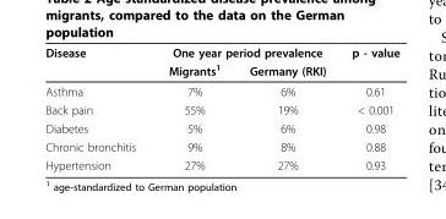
<table><thead><tr><td rowspan="2">Disease</td><td colspan="2">One year period prevalence</td><td rowspan="2">p - value</td></tr><tr><td>Migrants<sup>1</sup></td><td>Germany (RKI)</td></tr></thead><tbody><tr><td>Asthma</td><td>7%</td><td>6%</td><td>0.61</td></tr><tr><td>Back pain</td><td>55%</td><td>19%</td><td>&lt; 0.001</td></tr><tr><td>Diabetes</td><td>5%</td><td>6%</td><td>0.98</td></tr><tr><td>Chronic bronchitis</td><td>9%</td><td>8%</td><td>0.88</td></tr><tr><td>Hypertension</td><td>27%</td><td>27%</td><td>0.93</td></tr></tbody></table>